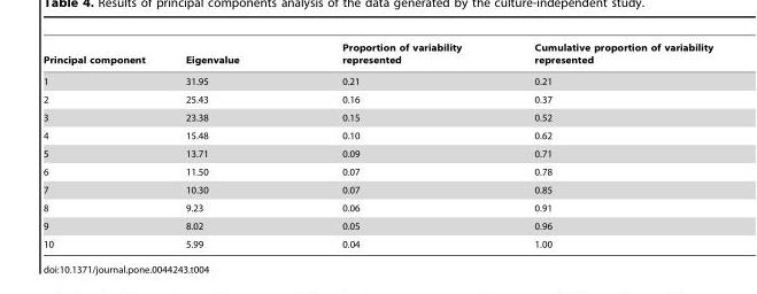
<table><thead><tr><td>Principal component</td><td>Eigenvalue</td><td>Proportion of variability represented</td><td>Cumulative proportion of variability represented</td></tr></thead><tbody><tr><td>1</td><td>31.95</td><td>0.21</td><td>0.21</td></tr><tr><td>2</td><td>25.43</td><td>0.16</td><td>0.37</td></tr><tr><td>3</td><td>23.38</td><td>0.15</td><td>0.52</td></tr><tr><td>4</td><td>15.48</td><td>0.10</td><td>0.62</td></tr><tr><td>5</td><td>13.71</td><td>0.09</td><td>0.71</td></tr><tr><td>6</td><td>11.50</td><td>0.07</td><td>0.78</td></tr><tr><td>7</td><td>10.30</td><td>0.07</td><td>0.85</td></tr><tr><td>8</td><td>9.23</td><td>0.06</td><td>0.91</td></tr><tr><td>9</td><td>8.02</td><td>0.05</td><td>0.96</td></tr><tr><td>10</td><td>5.99</td><td>0.04</td><td>1.00</td></tr></tbody></table>